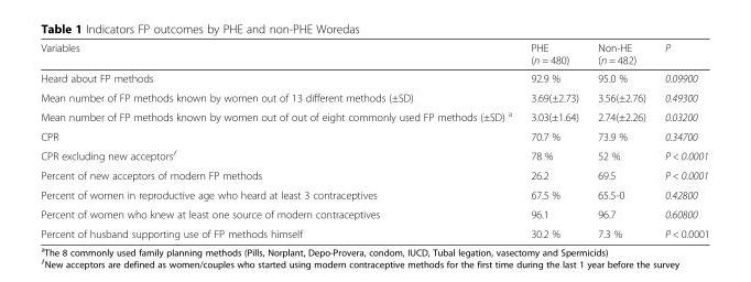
<table><thead><tr><td>Variables</td><td>PHE (n = 480)</td><td>Non-HE (n = 482)</td><td>P</td></tr></thead><tbody><tr><td>Heard about FP methods</td><td>92.9 %</td><td>95.0 %</td><td>0.09900</td></tr><tr><td>Mean number of FP methods known by women out of 13 different methods (±SD)</td><td>3.69(±2.73)</td><td>3.56(±2.76)</td><td>0.49300</td></tr><tr><td>Mean number of FP methods known by women out of out of eight commonly used FP methods (±SD) <sup>a</sup></td><td>3.03(±1.64)</td><td>2.74(±2.26)</td><td>0.03200</td></tr><tr><td>CPR</td><td>70.7 %</td><td>73.9 %</td><td>0.34700</td></tr><tr><td>CPR excluding new acceptors<sup>ƒ</sup></td><td>78 %</td><td>52 %</td><td>P &lt; 0.0001</td></tr><tr><td>Percent of new acceptors of modern FP methods</td><td>26.2</td><td>69.5</td><td>P &lt; 0.0001</td></tr><tr><td>Percent of women in reproductive age who heard at least 3 contraceptives</td><td>67.5 %</td><td>65.5-0</td><td>0.42800</td></tr><tr><td>Percent of women who knew at least one source of modern contraceptives</td><td>96.1</td><td>96.7</td><td>0.60800</td></tr><tr><td>Percent of husband supporting use of FP methods himself</td><td>30.2 %</td><td>7.3 %</td><td>P &lt; 0.0001</td></tr></tbody></table>